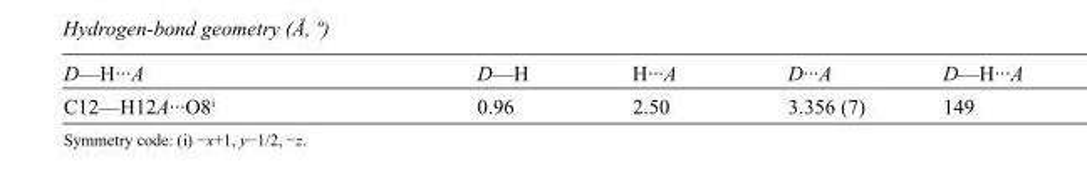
<table><tbody><tr><td>D—H···A</td><td>D—H</td><td>H···A</td><td>D···A</td><td>D—H···A</td></tr><tr><td>C12—H12A···O8<sup>i</sup></td><td>0.96</td><td>2.50</td><td>3.356 (7)</td><td>149</td></tr></tbody></table>